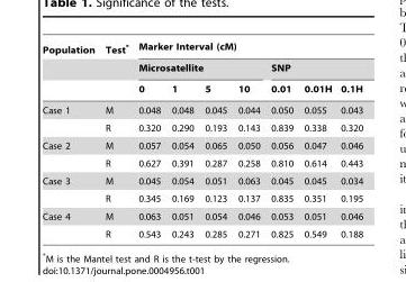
<table><thead><tr><td rowspan="3">Population</td><td rowspan="3">Test*</td><td colspan="7">Marker Interval (cM)</td></tr><tr><td colspan="4">Microsatellite</td><td colspan="3">SNP</td></tr><tr><td>0</td><td>1</td><td>5</td><td>10</td><td>0.01</td><td>0.01H</td><td>0.1H</td></tr></thead><tbody><tr><td rowspan="2">Case 1</td><td>M</td><td>0.048</td><td>0.048</td><td>0.045</td><td>0.044</td><td>0.050</td><td>0.055</td><td>0.043</td></tr><tr><td>R</td><td>0.320</td><td>0.290</td><td>0.193</td><td>0.143</td><td>0.839</td><td>0.338</td><td>0.320</td></tr><tr><td rowspan="2">Case 2</td><td>M</td><td>0.057</td><td>0.054</td><td>0.065</td><td>0.050</td><td>0.056</td><td>0.047</td><td>0.046</td></tr><tr><td>R</td><td>0.627</td><td>0.391</td><td>0.287</td><td>0.258</td><td>0.810</td><td>0.614</td><td>0.443</td></tr><tr><td rowspan="2">Case 3</td><td>M</td><td>0.045</td><td>0.054</td><td>0.051</td><td>0.063</td><td>0.045</td><td>0.045</td><td>0.034</td></tr><tr><td>R</td><td>0.345</td><td>0.169</td><td>0.123</td><td>0.137</td><td>0.835</td><td>0.351</td><td>0.195</td></tr><tr><td rowspan="2">Case 4</td><td>M</td><td>0.063</td><td>0.051</td><td>0.054</td><td>0.046</td><td>0.053</td><td>0.051</td><td>0.046</td></tr><tr><td>R</td><td>0.543</td><td>0.243</td><td>0.285</td><td>0.271</td><td>0.825</td><td>0.549</td><td>0.188</td></tr></tbody></table>